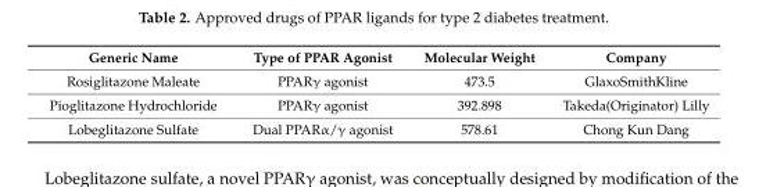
<table><thead><tr><td>Generic Name</td><td>Type of PPAR Agonist</td><td>Molecular Weight</td><td>Company</td></tr></thead><tbody><tr><td>Rosiglitazone Maleate</td><td>PPARγ agonist</td><td>473.5</td><td>GlaxoSmithKline</td></tr><tr><td>Pioglitazone Hydrochloride</td><td>PPARγ agonist</td><td>392.898</td><td>Takeda(Originator) Lilly</td></tr><tr><td>Lobeglitazone Sulfate</td><td>Dual PPARα/γ agonist</td><td>578.61</td><td>Chong Kun Dang</td></tr></tbody></table>